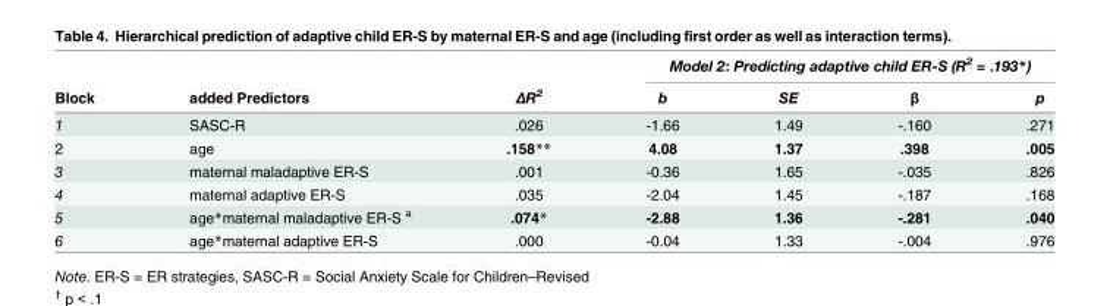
<table><thead><tr><td rowspan="2">Block</td><td rowspan="2">added Predictors</td><td rowspan="2">ΔR<sup>2</sup></td><td colspan="4">Model 2: Predicting adaptive child ER-S (R<sup>2</sup> = .193*)</td></tr><tr><td>b</td><td>SE</td><td>β</td><td>p</td></tr></thead><tbody><tr><td>1</td><td>SASC-R</td><td>.026</td><td>-1.66</td><td>1.49</td><td>-.160</td><td>.271</td></tr><tr><td>2</td><td>age</td><td>.158**</td><td>4.08</td><td>1.37</td><td>.398</td><td>.005</td></tr><tr><td>3</td><td>maternal maladaptive ER-S</td><td>.001</td><td>-0.36</td><td>1.65</td><td>-.035</td><td>.826</td></tr><tr><td>4</td><td>maternal adaptive ER-S</td><td>.035</td><td>-2.04</td><td>1.45</td><td>-.187</td><td>.168</td></tr><tr><td>5</td><td>age*maternal maladaptive ER-S <sup>a</sup></td><td>.074*</td><td>-2.88</td><td>1.36</td><td>-.281</td><td>.040</td></tr><tr><td>6</td><td>age*maternal adaptive ER-S</td><td>.000</td><td>-0.04</td><td>1.33</td><td>-.004</td><td>.976</td></tr></tbody></table>